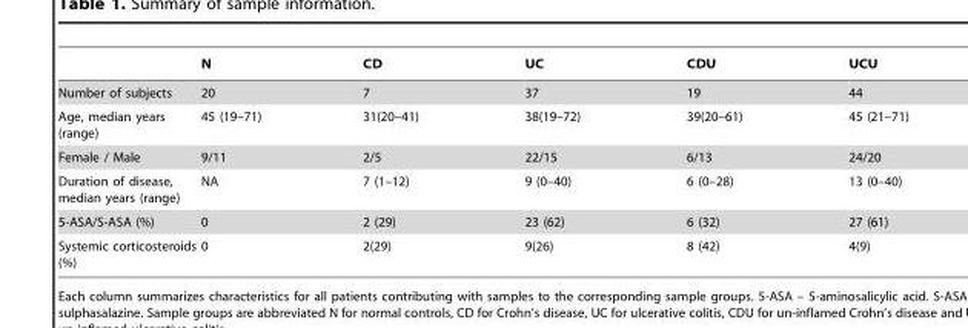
<table><thead><tr><td></td><td>N</td><td>CD</td><td>UC</td><td>CDU</td><td>UCU</td></tr></thead><tbody><tr><td>Number of subjects</td><td>20</td><td>7</td><td>37</td><td>19</td><td>44</td></tr><tr><td>Age, median years (range)</td><td>45 (19–71)</td><td>31(20–41)</td><td>38(19–72)</td><td>39(20–61)</td><td>45 (21–71)</td></tr><tr><td>Female / Male</td><td>9/11</td><td>2/5</td><td>22/15</td><td>6/13</td><td>24/20</td></tr><tr><td>Duration of disease, median years (range)</td><td>NA</td><td>7 (1–12)</td><td>9 (0–40)</td><td>6 (0–28)</td><td>13 (0–40)</td></tr><tr><td>5-ASA/S-ASA (%)</td><td>0</td><td>2 (29)</td><td>23 (62)</td><td>6 (32)</td><td>27 (61)</td></tr><tr><td>Systemic corticosteroids (%)</td><td>0</td><td>2(29)</td><td>9(26)</td><td>8 (42)</td><td>4(9)</td></tr></tbody></table>